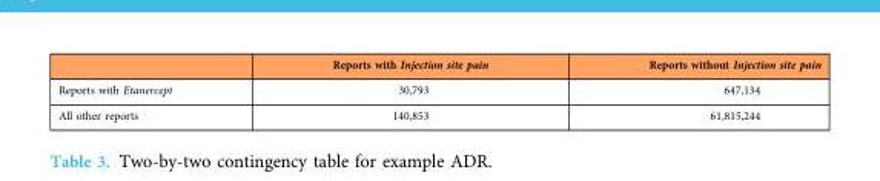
<table><thead><tr><td></td><td>Reports with Injection site pain</td><td>Reports without Injection site pain</td></tr></thead><tbody><tr><td>Reports with Etanercept</td><td>30,793</td><td>647,134</td></tr><tr><td>All other reports</td><td>140,853</td><td>61,815,244</td></tr></tbody></table>